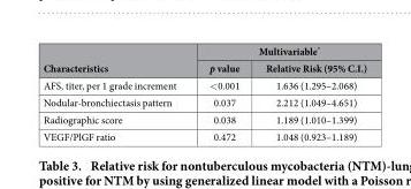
<table><thead><tr><td rowspan="2">Characteristics</td><td colspan="2">Multivariable*</td></tr><tr><td>p value</td><td>Relative Risk (95% C.I.)</td></tr></thead><tbody><tr><td>AFS, titer, per 1 grade increment</td><td>&lt; 0.001</td><td>1.636 (1.295–2.068)</td></tr><tr><td>Nodular-bronchiectasis pattern</td><td>0.037</td><td>2.212 (1.049–4.651)</td></tr><tr><td>Radiographic score</td><td>0.038</td><td>1.189 (1.010–1.399)</td></tr><tr><td>VEGF/PlGF ratio</td><td>0.472</td><td>1.048 (0.923–1.189)</td></tr></tbody></table>